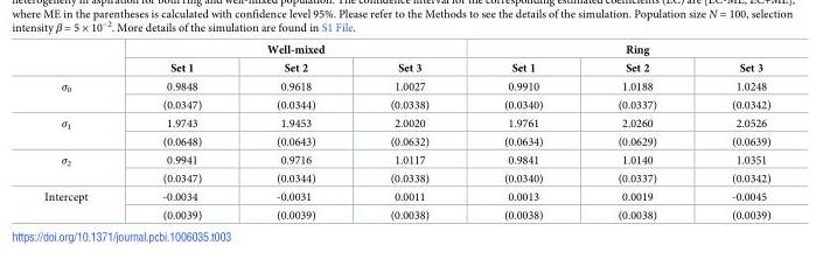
<table><thead><tr><td rowspan="2"></td><td colspan="3">Well-mixed</td><td colspan="3">Ring</td></tr><tr><td>Set 1</td><td>Set 2</td><td>Set 3</td><td>Set 1</td><td>Set 2</td><td>Set 3</td></tr></thead><tbody><tr><td rowspan="2">σ<sub>0</sub></td><td>0.9848</td><td>0.9618</td><td>1.0027</td><td>0.9910</td><td>1.0188</td><td>1.0248</td></tr><tr><td>(0.0347)</td><td>(0.0344)</td><td>(0.0338)</td><td>(0.0340)</td><td>(0.0337)</td><td>(0.0342)</td></tr><tr><td rowspan="2">σ<sub>1</sub></td><td>1.9743</td><td>1.9453</td><td>2.0020</td><td>1.9761</td><td>2.0260</td><td>2.0526</td></tr><tr><td>(0.0648)</td><td>(0.0643)</td><td>(0.0632)</td><td>(0.0634)</td><td>(0.0629)</td><td>(0.0639)</td></tr><tr><td rowspan="2">σ<sub>2</sub></td><td>0.9941</td><td>0.9716</td><td>1.0117</td><td>0.9841</td><td>1.0140</td><td>1.0351</td></tr><tr><td>(0.0347)</td><td>(0.0344)</td><td>(0.0338)</td><td>(0.0340)</td><td>(0.0337)</td><td>(0.0342)</td></tr><tr><td rowspan="2">Intercept</td><td>-0.0034</td><td>-0.0031</td><td>0.0011</td><td>0.0013</td><td>0.0019</td><td>-0.0045</td></tr><tr><td>(0.0039)</td><td>(0.0039)</td><td>(0.0038)</td><td>(0.0038)</td><td>(0.0038)</td><td>(0.0039)</td></tr></tbody></table>